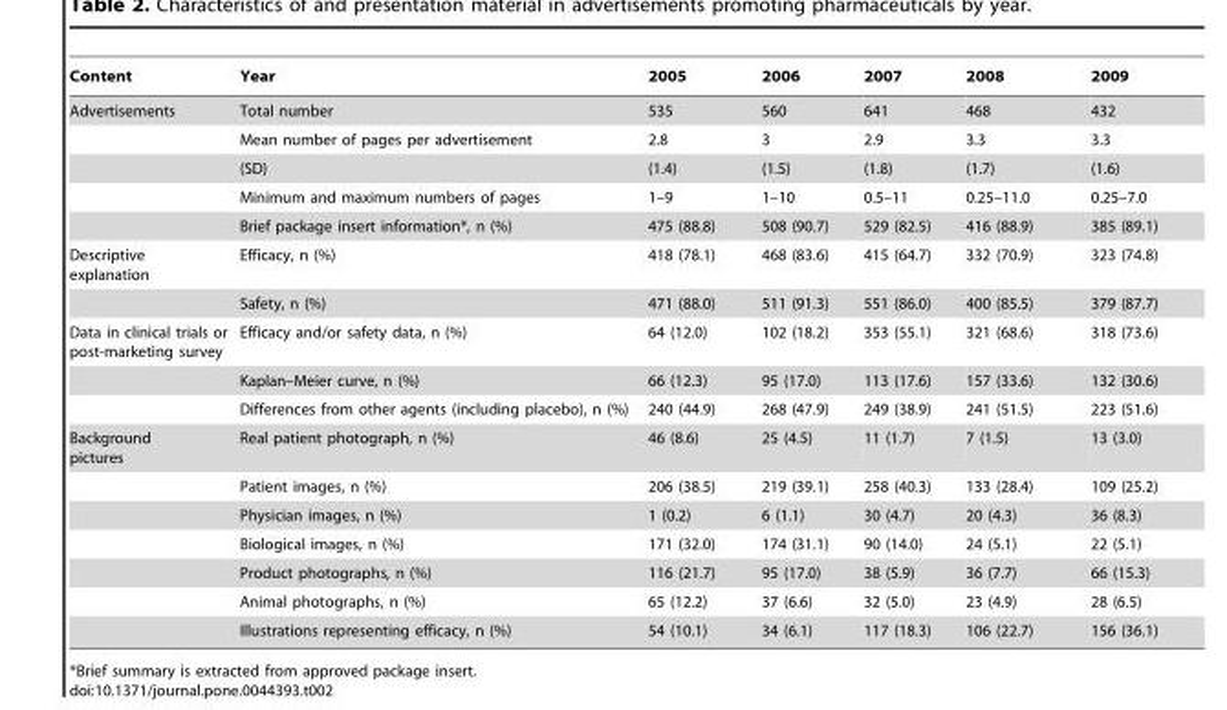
<table><thead><tr><td>Content</td><td>Year</td><td>2005</td><td>2006</td><td>2007</td><td>2008</td><td>2009</td></tr></thead><tbody><tr><td rowspan="5">Advertisements</td><td>Total number</td><td>535</td><td>560</td><td>641</td><td>468</td><td>432</td></tr><tr><td>Mean number of pages per advertisement</td><td>2.8</td><td>3</td><td>2.9</td><td>3.3</td><td>3.3</td></tr><tr><td>(SD)</td><td>(1.4)</td><td>(1.5)</td><td>(1.8)</td><td>(1.7)</td><td>(1.6)</td></tr><tr><td>Minimum and maximum numbers of pages</td><td>1–9</td><td>1–10</td><td>0.5–11</td><td>0.25–11.0</td><td>0.25–7.0</td></tr><tr><td>Brief package insert information*, n (%)</td><td>475 (88.8)</td><td>508 (90.7)</td><td>529 (82.5)</td><td>416 (88.9)</td><td>385 (89.1)</td></tr><tr><td rowspan="2">Descriptive explanation</td><td>Efficacy, n (%)</td><td>418 (78.1)</td><td>468 (83.6)</td><td>415 (64.7)</td><td>332 (70.9)</td><td>323 (74.8)</td></tr><tr><td>Safety, n (%)</td><td>471 (88.0)</td><td>511 (91.3)</td><td>551 (86.0)</td><td>400 (85.5)</td><td>379 (87.7)</td></tr><tr><td rowspan="3">Data in clinical trials or post-marketing survey</td><td>Efficacy and/or safety data, n (%)</td><td>64 (12.0)</td><td>102 (18.2)</td><td>353 (55.1)</td><td>321 (68.6)</td><td>318 (73.6)</td></tr><tr><td>Kaplan–Meier curve, n (%)</td><td>66 (12.3)</td><td>95 (17.0)</td><td>113 (17.6)</td><td>157 (33.6)</td><td>132 (30.6)</td></tr><tr><td>Differences from other agents (including placebo), n (%)</td><td>240 (44.9)</td><td>268 (47.9)</td><td>249 (38.9)</td><td>241 (51.5)</td><td>223 (51.6)</td></tr><tr><td rowspan="7">Background pictures</td><td>Real patient photograph, n (%)</td><td>46 (8.6)</td><td>25 (4.5)</td><td>11 (1.7)</td><td>7 (1.5)</td><td>13 (3.0)</td></tr><tr><td>Patient images, n (%)</td><td>206 (38.5)</td><td>219 (39.1)</td><td>258 (40.3)</td><td>133 (28.4)</td><td>109 (25.2)</td></tr><tr><td>Physician images, n (%)</td><td>1 (0.2)</td><td>6 (1.1)</td><td>30 (4.7)</td><td>20 (4.3)</td><td>36 (8.3)</td></tr><tr><td>Biological images, n (%)</td><td>171 (32.0)</td><td>174 (31.1)</td><td>90 (14.0)</td><td>24 (5.1)</td><td>22 (5.1)</td></tr><tr><td>Product photographs, n (%)</td><td>116 (21.7)</td><td>95 (17.0)</td><td>38 (5.9)</td><td>36 (7.7)</td><td>66 (15.3)</td></tr><tr><td>Animal photographs, n (%)</td><td>65 (12.2)</td><td>37 (6.6)</td><td>32 (5.0)</td><td>23 (4.9)</td><td>28 (6.5)</td></tr><tr><td>Illustrations representing efficacy, n (%)</td><td>54 (10.1)</td><td>34 (6.1)</td><td>117 (18.3)</td><td>106 (22.7)</td><td>156 (36.1)</td></tr></tbody></table>